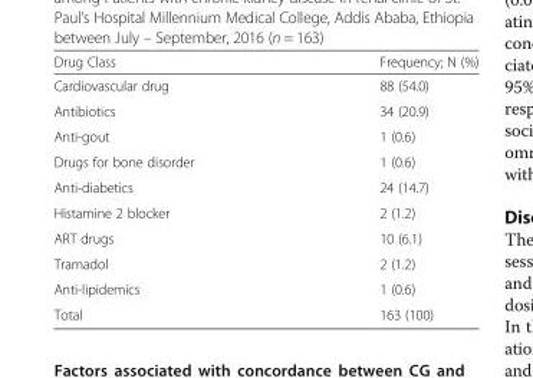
<table><thead><tr><td>Drug Class</td><td>Frequency; N (%)</td></tr></thead><tbody><tr><td>Cardiovascular drug</td><td>88 (54.0)</td></tr><tr><td>Antibiotics</td><td>34 (20.9)</td></tr><tr><td>Anti-gout</td><td>1 (0.6)</td></tr><tr><td>Drugs for bone disorder</td><td>1 (0.6)</td></tr><tr><td>Anti-diabetics</td><td>24 (14.7)</td></tr><tr><td>Histamine 2 blocker</td><td>2 (1.2)</td></tr><tr><td>ART drugs</td><td>10 (6.1)</td></tr><tr><td>Tramadol</td><td>2 (1.2)</td></tr><tr><td>Anti-lipidemics</td><td>1 (0.6)</td></tr><tr><td>Total</td><td>163 (100)</td></tr></tbody></table>